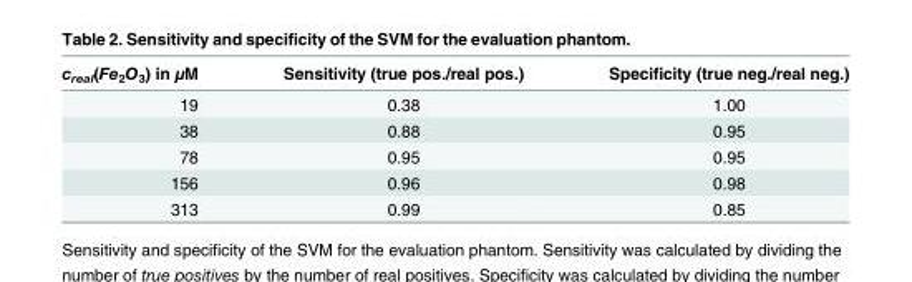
<table><thead><tr><td>c<sub>real</sub>(Fe<sub>2</sub>O<sub>3</sub>) in μM</td><td>Sensitivity (true pos./real pos.)</td><td>Specificity (true neg./real neg.)</td></tr></thead><tbody><tr><td>19</td><td>0.38</td><td>1.00</td></tr><tr><td>38</td><td>0.88</td><td>0.95</td></tr><tr><td>78</td><td>0.95</td><td>0.95</td></tr><tr><td>156</td><td>0.96</td><td>0.98</td></tr><tr><td>313</td><td>0.99</td><td>0.85</td></tr></tbody></table>